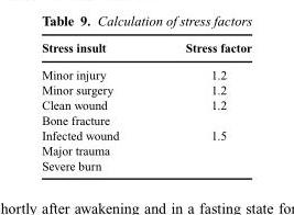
<table><thead><tr><td>Stress insult</td><td>Stress factor</td></tr></thead><tbody><tr><td>Minor injury</td><td>1.2</td></tr><tr><td>Minor surgery</td><td>1.2</td></tr><tr><td>Clean wound</td><td>1.2</td></tr><tr><td colspan="2">Bone fracture</td></tr><tr><td>Infected wound</td><td>1.5</td></tr><tr><td colspan="2">Major trauma</td></tr><tr><td>Severe burn</td><td></td></tr></tbody></table>